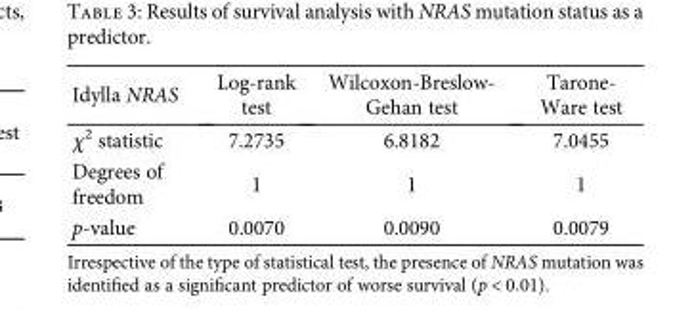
<table><thead><tr><td>Idylla NRAS</td><td>Log-rank test</td><td>Wilcoxon-Breslow- Gehan test</td><td>Tarone- Ware test</td></tr></thead><tbody><tr><td>χ<sup>2</sup> statistic</td><td>7.2735</td><td>6.8182</td><td>7.0455</td></tr><tr><td>Degrees of freedom</td><td>1</td><td>1</td><td>1</td></tr><tr><td>p-value</td><td>0.0070</td><td>0.0090</td><td>0.0079</td></tr></tbody></table>